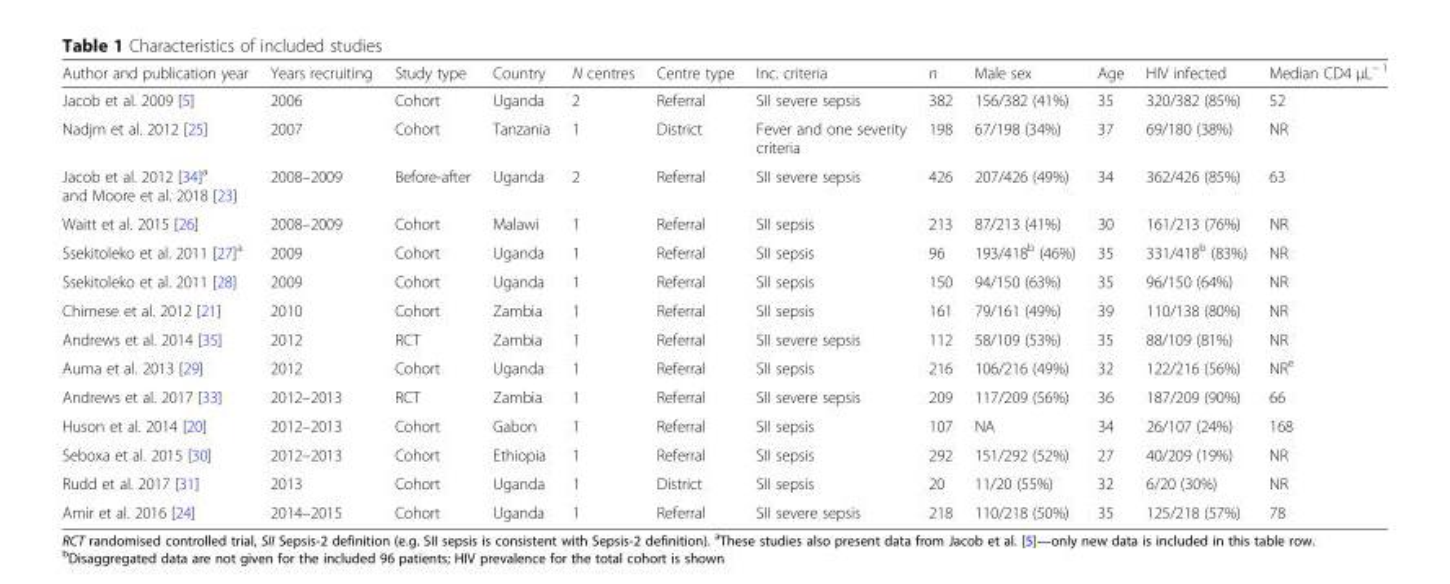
<table><thead><tr><td>Author and publication year</td><td>Years recruiting</td><td>Study type</td><td>Country</td><td>N centres</td><td>Centre type</td><td>Inc. criteria</td><td>n</td><td>Male sex</td><td>Age</td><td>HIV infected</td><td>Median CD4 μL<sup>− 1</sup></td></tr></thead><tbody><tr><td>Jacob et al. 2009 [5]</td><td>2006</td><td>Cohort</td><td>Uganda</td><td>2</td><td>Referral</td><td>SII severe sepsis</td><td>382</td><td>156/382 (41%)</td><td>35</td><td>320/382 (85%)</td><td>52</td></tr><tr><td>Nadjm et al. 2012 [25]</td><td>2007</td><td>Cohort</td><td>Tanzania</td><td>1</td><td>District</td><td>Fever and one severity criteria</td><td>198</td><td>67/198 (34%)</td><td>37</td><td>69/180 (38%)</td><td>NR</td></tr><tr><td>Jacob et al. 2012 [34]<sup>a</sup> and Moore et al. 2018 [23]</td><td>2008–2009</td><td>Before-after</td><td>Uganda</td><td>2</td><td>Referral</td><td>SII severe sepsis</td><td>426</td><td>207/426 (49%)</td><td>34</td><td>362/426 (85%)</td><td>63</td></tr><tr><td>Waitt et al. 2015 [26]</td><td>2008–2009</td><td>Cohort</td><td>Malawi</td><td>1</td><td>Referral</td><td>SII sepsis</td><td>213</td><td>87/213 (41%)</td><td>30</td><td>161/213 (76%)</td><td>NR</td></tr><tr><td>Ssekitoleko et al. 2011 [27]<sup>a</sup></td><td>2009</td><td>Cohort</td><td>Uganda</td><td>1</td><td>Referral</td><td>SII sepsis</td><td>96</td><td>193/418<sup>b</sup> (46%)</td><td>35</td><td>331/418<sup>b</sup> (83%)</td><td>NR</td></tr><tr><td>Ssekitoleko et al. 2011 [28]</td><td>2009</td><td>Cohort</td><td>Uganda</td><td>1</td><td>Referral</td><td>SII sepsis</td><td>150</td><td>94/150 (63%)</td><td>35</td><td>96/150 (64%)</td><td>NR</td></tr><tr><td>Chimese et al. 2012 [21]</td><td>2010</td><td>Cohort</td><td>Zambia</td><td>1</td><td>Referral</td><td>SII sepsis</td><td>161</td><td>79/161 (49%)</td><td>39</td><td>110/138 (80%)</td><td>NR</td></tr><tr><td>Andrews et al. 2014 [35]</td><td>2012</td><td>RCT</td><td>Zambia</td><td>1</td><td>Referral</td><td>SII severe sepsis</td><td>112</td><td>58/109 (53%)</td><td>35</td><td>88/109 (81%)</td><td>NR</td></tr><tr><td>Auma et al. 2013 [29]</td><td>2012</td><td>Cohort</td><td>Uganda</td><td>1</td><td>Referral</td><td>SII sepsis</td><td>216</td><td>106/216 (49%)</td><td>32</td><td>122/216 (56%)</td><td>NR<sup>e</sup></td></tr><tr><td>Andrews et al. 2017 [33]</td><td>2012–2013</td><td>RCT</td><td>Zambia</td><td>1</td><td>Referral</td><td>SII severe sepsis</td><td>209</td><td>117/209 (56%)</td><td>36</td><td>187/209 (90%)</td><td>66</td></tr><tr><td>Huson et al. 2014 [20]</td><td>2012–2013</td><td>Cohort</td><td>Gabon</td><td>1</td><td>Referral</td><td>SII sepsis</td><td>107</td><td>NA</td><td>34</td><td>26/107 (24%)</td><td>168</td></tr><tr><td>Seboxa et al. 2015 [30]</td><td>2012–2013</td><td>Cohort</td><td>Ethiopia</td><td>1</td><td>Referral</td><td>SII sepsis</td><td>292</td><td>151/292 (52%)</td><td>27</td><td>40/209 (19%)</td><td>NR</td></tr><tr><td>Rudd et al. 2017 [31]</td><td>2013</td><td>Cohort</td><td>Uganda</td><td>1</td><td>District</td><td>SII sepsis</td><td>20</td><td>11/20 (55%)</td><td>32</td><td>6/20 (30%)</td><td>NR</td></tr><tr><td>Amir et al. 2016 [24]</td><td>2014–2015</td><td>Cohort</td><td>Uganda</td><td>1</td><td>Referral</td><td>SII severe sepsis</td><td>218</td><td>110/218 (50%)</td><td>35</td><td>125/218 (57%)</td><td>78</td></tr></tbody></table>